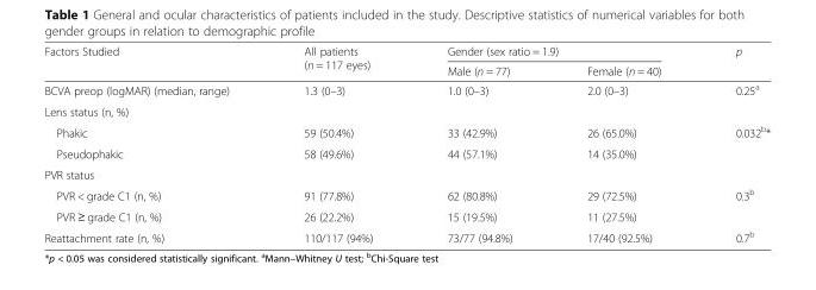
<table><thead><tr><td rowspan="2">Factors Studied</td><td rowspan="2">All patients (n = 117 eyes)</td><td colspan="2">Gender (sex ratio = 1.9)</td><td rowspan="2">p</td></tr><tr><td>Male (n = 77)</td><td>Female (n = 40)</td></tr></thead><tbody><tr><td>BCVA preop (logMAR) (median, range)</td><td>1.3 (0–3)</td><td>1.0 (0–3)</td><td>2.0 (0–3)</td><td>0.25<sup>a</sup></td></tr><tr><td colspan="5">Lens status (n, %)</td></tr><tr><td>Phakic</td><td>59 (50.4%)</td><td>33 (42.9%)</td><td>26 (65.0%)</td><td rowspan="2">0.032<sup>b</sup>*</td></tr><tr><td>Pseudophakic</td><td>58 (49.6%)</td><td>44 (57.1%)</td><td>14 (35.0%)</td></tr><tr><td colspan="5">PVR status</td></tr><tr><td>PVR &lt; grade C1 (n, %)</td><td>91 (77.8%)</td><td>62 (80.8%)</td><td>29 (72.5%)</td><td rowspan="2">0.3<sup>b</sup></td></tr><tr><td>PVR ≥ grade C1 (n, %)</td><td>26 (22.2%)</td><td>15 (19.5%)</td><td>11 (27.5%)</td></tr><tr><td>Reattachment rate (n, %)</td><td>110/117 (94%)</td><td>73/77 (94.8%)</td><td>17/40 (92.5%)</td><td>0.7<sup>b</sup></td></tr></tbody></table>